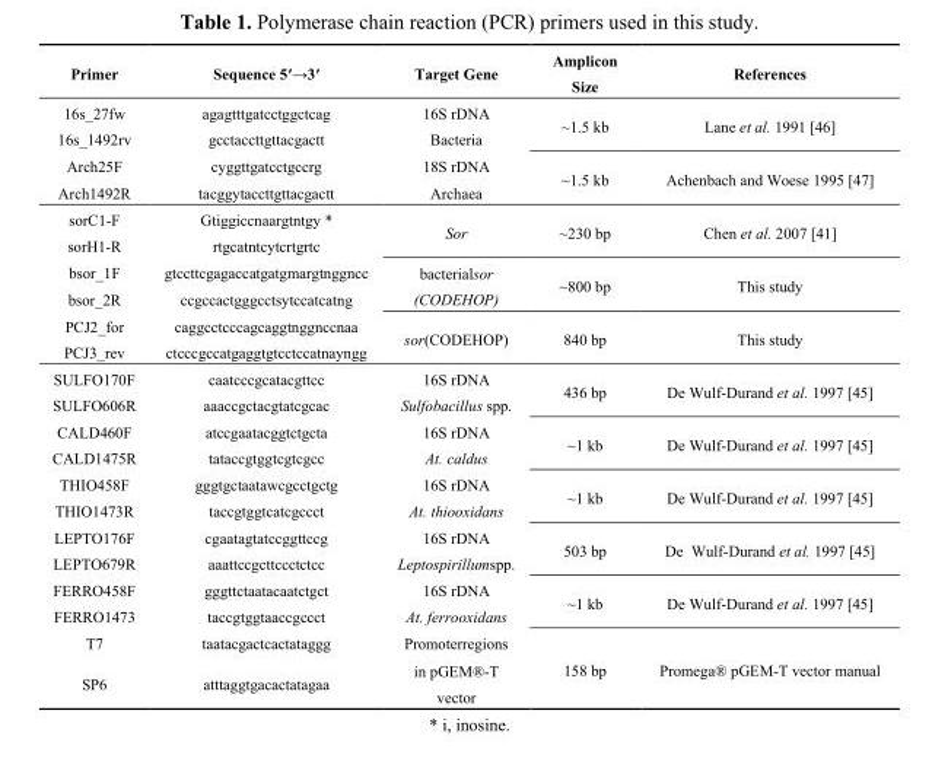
<table><thead><tr><td>Primer</td><td>Sequence 5ʹ→3ʹ</td><td>Target Gene</td><td>Amplicon Size</td><td>References</td></tr></thead><tbody><tr><td>16s_27fw</td><td>agagtttgatcctggctcag</td><td>16S rDNA</td><td rowspan="2">~1.5 kb</td><td rowspan="2">Lane et al. 1991 [46]</td></tr><tr><td>16s_1492rv</td><td>gcctaccttgttacgactt</td><td>Bacteria</td></tr><tr><td>Arch25F</td><td>cyggttgatcctgccrg</td><td>18S rDNA</td><td rowspan="2">~1.5 kb</td><td rowspan="2">Achenbach and Woese 1995 [47]</td></tr><tr><td>Arch1492R</td><td>tacggytaccttgttacgactt</td><td>Archaea</td></tr><tr><td>sorC1-F</td><td>Gtiggiccnaargtntgy *</td><td rowspan="2">Sor</td><td rowspan="2">~230 bp</td><td rowspan="2">Chen et al. 2007 [41]</td></tr><tr><td>sorH1-R</td><td>rtgcatntcytcrtgrtc</td></tr><tr><td>bsor_1F</td><td>gtccttcgagaccatgatgmargtnggncc</td><td rowspan="2">bacterialsor (CODEHOP)</td><td rowspan="2">~800 bp</td><td rowspan="2">This study</td></tr><tr><td>bsor_2R</td><td>ccgccactgggcctsytccatcatng</td></tr><tr><td>PCJ2_for</td><td>caggcctcccagcaggtnggnccnaa</td><td rowspan="2">sor(CODEHOP)</td><td rowspan="2">840 bp</td><td rowspan="2">This study</td></tr><tr><td>PCJ3_rev</td><td>ctcccgccatgaggtgtcctccatnayngg</td></tr><tr><td>SULFO170F</td><td>caatcccgcatacgttcc</td><td>16S rDNA</td><td rowspan="2">436 bp</td><td rowspan="2">De Wulf-Durand et al. 1997 [45]</td></tr><tr><td>SULFO606R</td><td>aaaccgctacgtatcgcac</td><td>Sulfobacillus spp.</td></tr><tr><td>CALD460F</td><td>atccgaatacggtctgcta</td><td>16S rDNA</td><td rowspan="2">~1 kb</td><td rowspan="2">De Wulf-Durand et al. 1997 [45]</td></tr><tr><td>CALD1475R</td><td>tataccgtggtcgtcgcc</td><td>At. caldus</td></tr><tr><td>THIO458F</td><td>gggtgctaatawcgcctgctg</td><td>16S rDNA</td><td rowspan="2">~1 kb</td><td rowspan="2">De Wulf-Durand et al. 1997 [45]</td></tr><tr><td>THIO1473R</td><td>taccgtggtcatcgccct</td><td>At. thiooxidans</td></tr><tr><td>LEPTO176F</td><td>cgaatagtatccggttccg</td><td>16S rDNA</td><td rowspan="2">503 bp</td><td rowspan="2">De Wulf-Durand et al. 1997 [45]</td></tr><tr><td>LEPTO679R</td><td>aaattccgcttccctctcc</td><td>Leptospirillumspp.</td></tr><tr><td>FERRO458F</td><td>gggttctaatacaatctgct</td><td>16S rDNA</td><td rowspan="2">~1 kb</td><td rowspan="2">De Wulf-Durand et al. 1997 [45]</td></tr><tr><td>FERRO1473</td><td>taccgtggtaaccgccct</td><td>At. ferrooxidans</td></tr><tr><td>T7</td><td>taatacgactcactataggg</td><td>Promoterregions</td><td rowspan="2">158 bp</td><td rowspan="2">Promega® pGEM-T vector manual</td></tr><tr><td>SP6</td><td>atttaggtgacactatagaa</td><td>in pGEM®-T vector</td></tr></tbody></table>